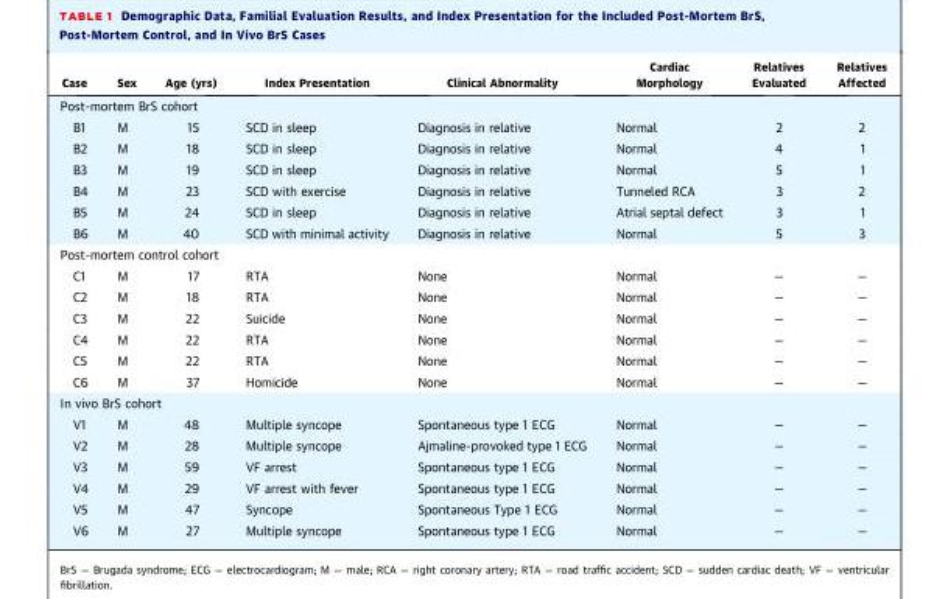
<table><thead><tr><td>Case</td><td>Sex</td><td>Age (yrs)</td><td>Index Presentation</td><td>Clinical Abnormality</td><td>Cardiac Morphology</td><td>Relatives Evaluated</td><td>Relatives Affected</td></tr></thead><tbody><tr><td colspan="8">Post-mortem BrS cohort</td></tr><tr><td>B1</td><td>M</td><td>15</td><td>SCD in sleep</td><td>Diagnosis in relative</td><td>Normal</td><td>2</td><td>2</td></tr><tr><td>B2</td><td>M</td><td>18</td><td>SCD in sleep</td><td>Diagnosis in relative</td><td>Normal</td><td>4</td><td>1</td></tr><tr><td>B3</td><td>M</td><td>19</td><td>SCD in sleep</td><td>Diagnosis in relative</td><td>Normal</td><td>5</td><td>1</td></tr><tr><td>B4</td><td>M</td><td>23</td><td>SCD with exercise</td><td>Diagnosis in relative</td><td>Tunneled RCA</td><td>3</td><td>2</td></tr><tr><td>B5</td><td>M</td><td>24</td><td>SCD in sleep</td><td>Diagnosis in relative</td><td>Atrial septal defect</td><td>3</td><td>1</td></tr><tr><td>B6</td><td>M</td><td>40</td><td>SCD with minimal activity</td><td>Diagnosis in relative</td><td>Normal</td><td>5</td><td>3</td></tr><tr><td colspan="8">Post-mortem control cohort</td></tr><tr><td>C1</td><td>M</td><td>17</td><td>RTA</td><td>None</td><td>Normal</td><td>—</td><td>—</td></tr><tr><td>C2</td><td>M</td><td>18</td><td>RTA</td><td>None</td><td>Normal</td><td>—</td><td>—</td></tr><tr><td>C3</td><td>M</td><td>22</td><td>Suicide</td><td>None</td><td>Normal</td><td>—</td><td>—</td></tr><tr><td>C4</td><td>M</td><td>22</td><td>RTA</td><td>None</td><td>Normal</td><td>—</td><td>—</td></tr><tr><td>C5</td><td>M</td><td>22</td><td>RTA</td><td>None</td><td>Normal</td><td>—</td><td>—</td></tr><tr><td>C6</td><td>M</td><td>37</td><td>Homicide</td><td>None</td><td>Normal</td><td>—</td><td>—</td></tr><tr><td colspan="8">In vivo BrS cohort</td></tr><tr><td>V1</td><td>M</td><td>48</td><td>Multiple syncope</td><td>Spontaneous type 1 ECG</td><td>Normal</td><td>—</td><td>—</td></tr><tr><td>V2</td><td>M</td><td>28</td><td>Multiple syncope</td><td>Ajmaline-provoked type 1 ECG</td><td>Normal</td><td>—</td><td>—</td></tr><tr><td>V3</td><td>M</td><td>59</td><td>VF arrest</td><td>Spontaneous type 1 ECG</td><td>Normal</td><td>—</td><td>—</td></tr><tr><td>V4</td><td>M</td><td>29</td><td>VF arrest with fever</td><td>Spontaneous type 1 ECG</td><td>Normal</td><td>—</td><td>—</td></tr><tr><td>V5</td><td>M</td><td>47</td><td>Syncope</td><td>Spontaneous Type 1 ECG</td><td>Normal</td><td>—</td><td>—</td></tr><tr><td>V6</td><td>M</td><td>27</td><td>Multiple syncope</td><td>Spontaneous type 1 ECG</td><td>Normal</td><td>—</td><td>—</td></tr></tbody></table>